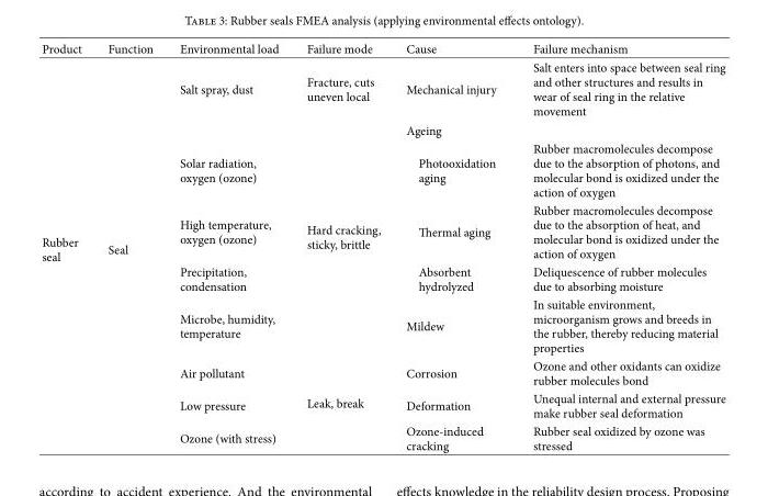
<table><thead><tr><td>Product</td><td>Function</td><td>Environmental load</td><td>Failure mode</td><td>Cause</td><td>Failure mechanism</td></tr></thead><tbody><tr><td rowspan="9">Rubber seal</td><td rowspan="9">Seal</td><td>Salt spray, dust</td><td>Fracture, cuts uneven local</td><td>Mechanical injury</td><td>Salt enters into space between seal ring and other structures and results in wear of seal ring in the relative movement</td></tr><tr><td></td><td></td><td>Ageing</td><td></td></tr><tr><td>Solar radiation, oxygen (ozone)</td><td rowspan="4">Hard cracking, sticky, brittle</td><td>Photooxidation aging</td><td>Rubber macromolecules decompose due to the absorption of photons, and molecular bond is oxidized under the action of oxygen</td></tr><tr><td>High temperature, oxygen (ozone)</td><td>Thermal aging</td><td>Rubber macromolecules decompose due to the absorption of heat, and molecular bond is oxidized under the action of oxygen</td></tr><tr><td>Precipitation, condensation</td><td>Absorbent hydrolyzed</td><td>Deliquescence of rubber molecules due to absorbing moisture</td></tr><tr><td>Microbe, humidity, temperature</td><td>Mildew</td><td>In suitable environment, microorganism grows and breeds in the rubber, thereby reducing material properties</td></tr><tr><td>Air pollutant</td><td rowspan="3">Leak, break</td><td>Corrosion</td><td>Ozone and other oxidants can oxidize rubber molecules bond</td></tr><tr><td>Low pressure</td><td>Deformation</td><td>Unequal internal and external pressure make rubber seal deformation</td></tr><tr><td>Ozone (with stress)</td><td>Ozone-induced cracking</td><td>Rubber seal oxidized by ozone was stressed</td></tr></tbody></table>